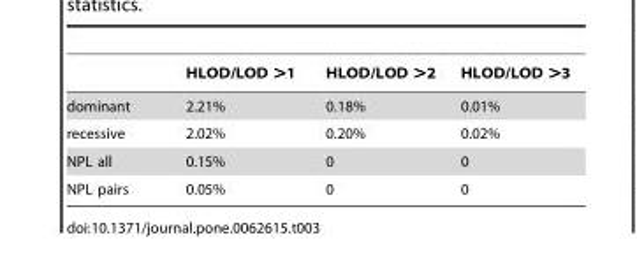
<table><thead><tr><td></td><td>HLOD/LOD &gt;1</td><td>HLOD/LOD &gt;2</td><td>HLOD/LOD &gt;3</td></tr></thead><tbody><tr><td>dominant</td><td>2.21%</td><td>0.18%</td><td>0.01%</td></tr><tr><td>recessive</td><td>2.02%</td><td>0.20%</td><td>0.02%</td></tr><tr><td>NPL all</td><td>0.15%</td><td>0</td><td>0</td></tr><tr><td>NPL pairs</td><td>0.05%</td><td>0</td><td>0</td></tr></tbody></table>